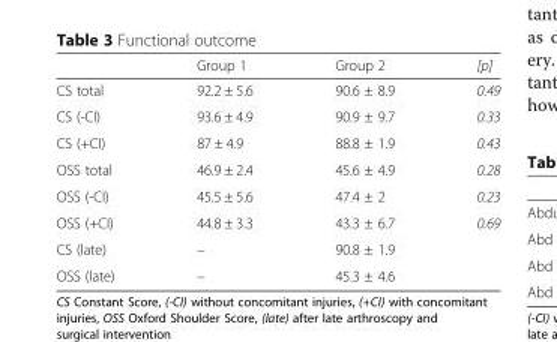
<table><thead><tr><td></td><td>Group 1</td><td>Group 2</td><td>[p]</td></tr></thead><tbody><tr><td>CS total</td><td>92.2 ± 5.6</td><td>90.6 ± 8.9</td><td>0.49</td></tr><tr><td>CS (-CI)</td><td>93.6 ± 4.9</td><td>90.9 ± 9.7</td><td>0.33</td></tr><tr><td>CS (+CI)</td><td>87 ± 4.9</td><td>88.8 ± 1.9</td><td>0.43</td></tr><tr><td>OSS total</td><td>46.9 ± 2.4</td><td>45.6 ± 4.9</td><td>0.28</td></tr><tr><td>OSS (-CI)</td><td>45.5 ± 5.6</td><td>47.4 ± 2</td><td>0.23</td></tr><tr><td>OSS (+CI)</td><td>44.8 ± 3.3</td><td>43.3 ± 6.7</td><td>0.69</td></tr><tr><td>CS (late)</td><td>–</td><td>90.8 ± 1.9</td><td></td></tr><tr><td>OSS (late)</td><td>–</td><td>45.3 ± 4.6</td><td></td></tr></tbody></table>